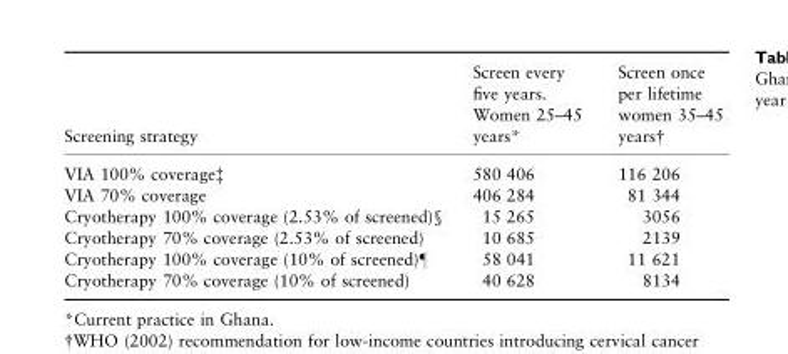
<table><thead><tr><td>Screening strategy</td><td>Screen every five years. Women 25–45 years*</td><td>Screen once per lifetime women 35–45 years†</td></tr></thead><tbody><tr><td>VIA 100% coverage‡</td><td>580 406</td><td>116 206</td></tr><tr><td>VIA 70% coverage</td><td>406 284</td><td>81 344</td></tr><tr><td>Cryotherapy 100% coverage (2.53% of screened)§</td><td>15 265</td><td>3056</td></tr><tr><td>Cryotherapy 70% coverage (2.53% of screened)</td><td>10 685</td><td>2139</td></tr><tr><td>Cryotherapy 100% coverage (10% of screened)–</td><td>58 041</td><td>11 621</td></tr><tr><td>Cryotherapy 70% coverage (10% of screened)</td><td>40 628</td><td>8134</td></tr></tbody></table>